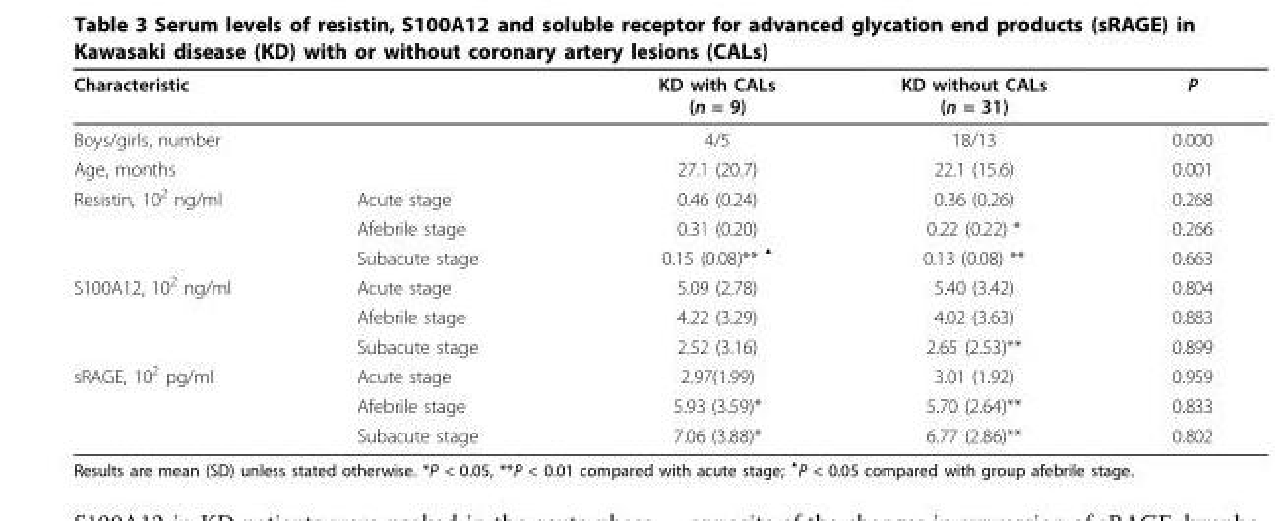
<table><thead><tr><td rowspan="3" colspan="2">Characteristic Boys/girls, number Age, months</td><td rowspan="4">KD with CALs (n = 9) 4/5 27.1 (20.7) 0.46 (0.24)</td><td rowspan="4">KD without CALs (n = 31) 18/13 22.1 (15.6) 0.36 (0.26)</td><td rowspan="4">P 0.000 0.001 0.268</td></tr><tr></tr><tr></tr><tr><td>Resistin, 10<sup>2</sup> ng/ml</td><td>Acute stage</td></tr></thead><tbody><tr><td></td><td>Afebrile stage</td><td>0.31 (0.20)</td><td>0.22 (0.22) *</td><td>0.266</td></tr><tr><td></td><td>Subacute stage</td><td>0.15 (0.08)** <sup>▲</sup></td><td>0.13 (0.08) **</td><td>0.663</td></tr><tr><td rowspan="3">S100A12, 10<sup>2</sup> ng/ml</td><td>Acute stage</td><td>5.09 (2.78)</td><td>5.40 (3.42)</td><td>0.804</td></tr><tr><td>Afebrile stage</td><td>4.22 (3.29)</td><td>4.02 (3.63)</td><td>0.883</td></tr><tr><td>Subacute stage</td><td>2.52 (3.16)</td><td>2.65 (2.53)**</td><td>0.899</td></tr><tr><td rowspan="3">sRAGE, 10<sup>2</sup> pg/ml</td><td>Acute stage</td><td>2.97(1.99)</td><td>3.01 (1.92)</td><td>0.959</td></tr><tr><td>Afebrile stage</td><td>5.93 (3.59)*</td><td>5.70 (2.64)**</td><td>0.833</td></tr><tr><td>Subacute stage</td><td>7.06 (3.88)*</td><td>6.77 (2.86)**</td><td>0.802</td></tr></tbody></table>